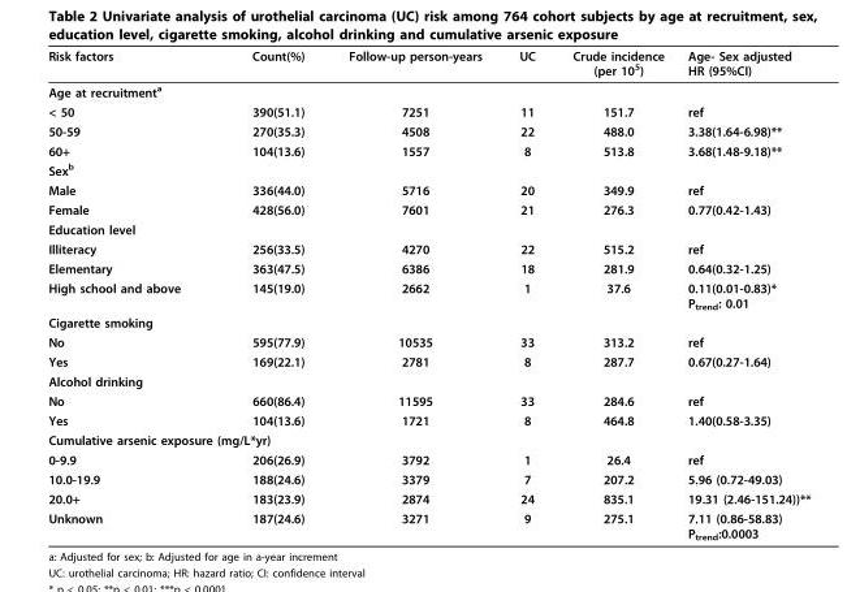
<table><thead><tr><td>Risk factors</td><td>Count(%)</td><td>Follow-up person-years</td><td>UC</td><td>Crude incidence (per 10<sup>5</sup>)</td><td>Age- Sex adjusted HR (95%CI)</td></tr></thead><tbody><tr><td colspan="6">Age at recruitment<sup>a</sup></td></tr><tr><td>&lt; 50</td><td>390(51.1)</td><td>7251</td><td>11</td><td>151.7</td><td>ref</td></tr><tr><td>50-59</td><td>270(35.3)</td><td>4508</td><td>22</td><td>488.0</td><td>3.38(1.64-6.98)**</td></tr><tr><td>60+</td><td>104(13.6)</td><td>1557</td><td>8</td><td>513.8</td><td>3.68(1.48-9.18)**</td></tr><tr><td colspan="6">Sex<sup>b</sup></td></tr><tr><td>Male</td><td>336(44.0)</td><td>5716</td><td>20</td><td>349.9</td><td>ref</td></tr><tr><td>Female</td><td>428(56.0)</td><td>7601</td><td>21</td><td>276.3</td><td>0.77(0.42-1.43)</td></tr><tr><td colspan="6">Education level</td></tr><tr><td>Illiteracy</td><td>256(33.5)</td><td>4270</td><td>22</td><td>515.2</td><td>ref</td></tr><tr><td>Elementary</td><td>363(47.5)</td><td>6386</td><td>18</td><td>281.9</td><td>0.64(0.32-1.25)</td></tr><tr><td>High school and above</td><td>145(19.0)</td><td>2662</td><td>1</td><td>37.6</td><td>0.11(0.01-0.83)* P<sub>trend</sub>: 0.01</td></tr><tr><td colspan="6">Cigarette smoking</td></tr><tr><td>No</td><td>595(77.9)</td><td>10535</td><td>33</td><td>313.2</td><td>ref</td></tr><tr><td>Yes</td><td>169(22.1)</td><td>2781</td><td>8</td><td>287.7</td><td>0.67(0.27-1.64)</td></tr><tr><td colspan="6">Alcohol drinking</td></tr><tr><td>No</td><td>660(86.4)</td><td>11595</td><td>33</td><td>284.6</td><td>ref</td></tr><tr><td>Yes</td><td>104(13.6)</td><td>1721</td><td>8</td><td>464.8</td><td>1.40(0.58-3.35)</td></tr><tr><td colspan="6">Cumulative arsenic exposure (mg/L*yr)</td></tr><tr><td>0-9.9</td><td>206(26.9)</td><td>3792</td><td>1</td><td>26.4</td><td>ref</td></tr><tr><td>10.0-19.9</td><td>188(24.6)</td><td>3379</td><td>7</td><td>207.2</td><td>5.96 (0.72-49.03)</td></tr><tr><td>20.0+</td><td>183(23.9)</td><td>2874</td><td>24</td><td>835.1</td><td>19.31 (2.46-151.24))**</td></tr><tr><td>Unknown</td><td>187(24.6)</td><td>3271</td><td>9</td><td>275.1</td><td>7.11 (0.86-58.83) P<sub>trend</sub>:0.0003</td></tr></tbody></table>